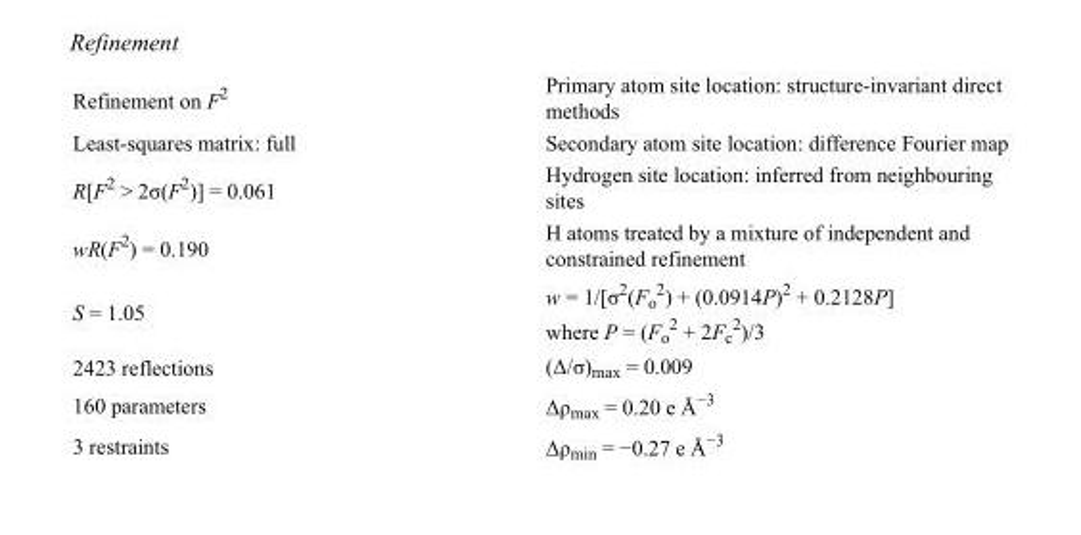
<table><tbody><tr><td>Refinement on F<sup>2</sup></td><td>Primary atom site location: structure-invariant direct methods</td></tr><tr><td>Least-squares matrix: full</td><td>Secondary atom site location: difference Fourier map</td></tr><tr><td>R[F<sup>2</sup> &gt; 2σ(F<sup>2</sup>)] = 0.061</td><td>Hydrogen site location: inferred from neighbouring sites</td></tr><tr><td>wR(F<sup>2</sup>) = 0.190</td><td>H atoms treated by a mixture of independent and constrained refinement</td></tr><tr><td>S = 1.05</td><td>w = 1/[σ<sup>2</sup>(F<sub>o</sub> <sup>2</sup>) + (0.0914P)<sup>2</sup> + 0.2128P] where P = (F<sub>o</sub> <sup>2</sup> + 2F<sub>c</sub> <sup>2</sup>)/3</td></tr><tr><td>2423 reflections</td><td>(Δ/σ)<sub>max</sub> = 0.009</td></tr><tr><td>160 parameters</td><td>Δρ<sub>max</sub> = 0.20 e Å<sup>−3</sup></td></tr><tr><td>3 restraints</td><td>Δρ<sub>min</sub> = −0.27 e Å<sup>−3</sup></td></tr></tbody></table>